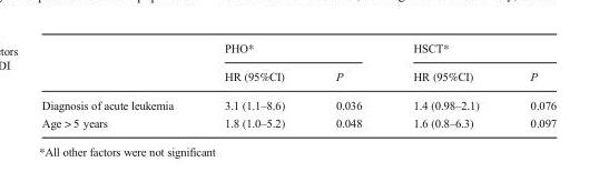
<table><thead><tr><td rowspan="2"></td><td colspan="2">PHO*</td><td colspan="2">HSCT*</td></tr><tr><td>HR (95%CI)</td><td>P</td><td>HR (95%CI)</td><td>P</td></tr></thead><tbody><tr><td>Diagnosis of acute leukemia</td><td>3.1 (1.1–8.6)</td><td>0.036</td><td>1.4 (0.98–2.1)</td><td>0.076</td></tr><tr><td>Age &gt; 5 years</td><td>1.8 (1.0–5.2)</td><td>0.048</td><td>1.6 (0.8–6.3)</td><td>0.097</td></tr></tbody></table>